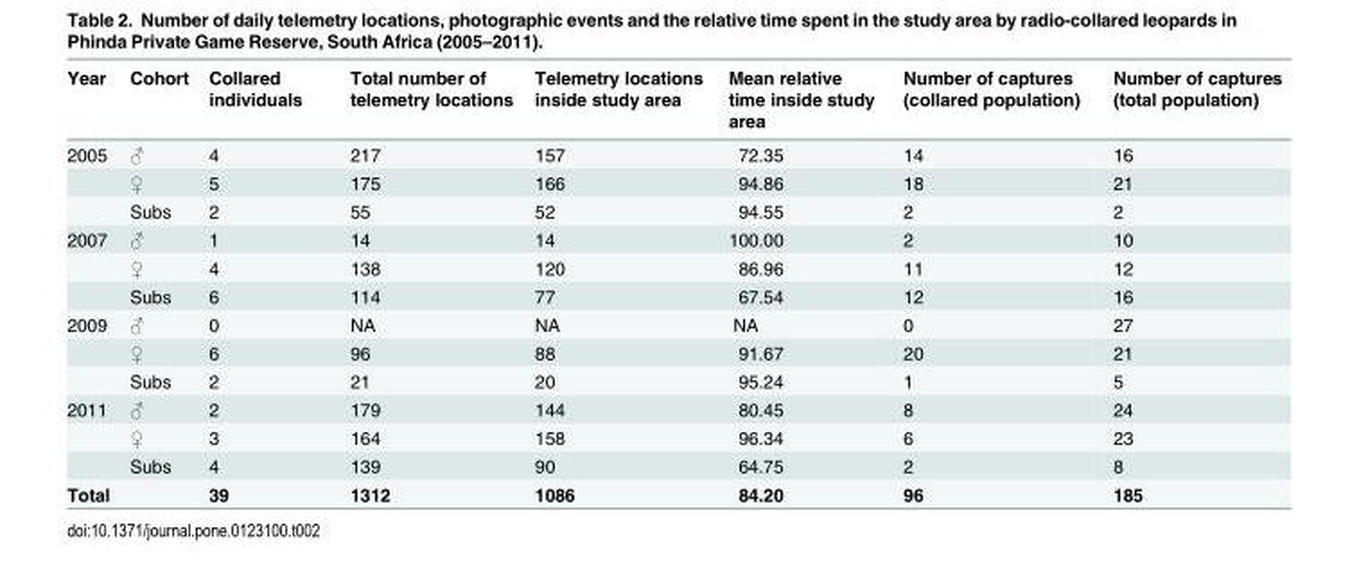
<table><thead><tr><td>Year</td><td>Cohort</td><td>Collared individuals</td><td>Total number of telemetry locations</td><td>Telemetry locations inside study area</td><td>Mean relative time inside study area</td><td>Number of captures (collared population)</td><td>Number of captures (total population)</td></tr></thead><tbody><tr><td rowspan="3">2005</td><td>♂</td><td>4</td><td>217</td><td>157</td><td>72.35</td><td>14</td><td>16</td></tr><tr><td>♀</td><td>5</td><td>175</td><td>166</td><td>94.86</td><td>18</td><td>21</td></tr><tr><td>Subs</td><td>2</td><td>55</td><td>52</td><td>94.55</td><td>2</td><td>2</td></tr><tr><td rowspan="3">2007</td><td>♂</td><td>1</td><td>14</td><td>14</td><td>100.00</td><td>2</td><td>10</td></tr><tr><td>♀</td><td>4</td><td>138</td><td>120</td><td>86.96</td><td>11</td><td>12</td></tr><tr><td>Subs</td><td>6</td><td>114</td><td>77</td><td>67.54</td><td>12</td><td>16</td></tr><tr><td rowspan="3">2009</td><td>♂</td><td>0</td><td>NA</td><td>NA</td><td>NA</td><td>0</td><td>27</td></tr><tr><td>♀</td><td>6</td><td>96</td><td>88</td><td>91.67</td><td>20</td><td>21</td></tr><tr><td>Subs</td><td>2</td><td>21</td><td>20</td><td>95.24</td><td>1</td><td>5</td></tr><tr><td rowspan="3">2011</td><td>♂</td><td>2</td><td>179</td><td>144</td><td>80.45</td><td>8</td><td>24</td></tr><tr><td>♀</td><td>3</td><td>164</td><td>158</td><td>96.34</td><td>6</td><td>23</td></tr><tr><td>Subs</td><td>4</td><td>139</td><td>90</td><td>64.75</td><td>2</td><td>8</td></tr><tr><td>Total</td><td></td><td>39</td><td>1312</td><td>1086</td><td>84.20</td><td>96</td><td>185</td></tr></tbody></table>